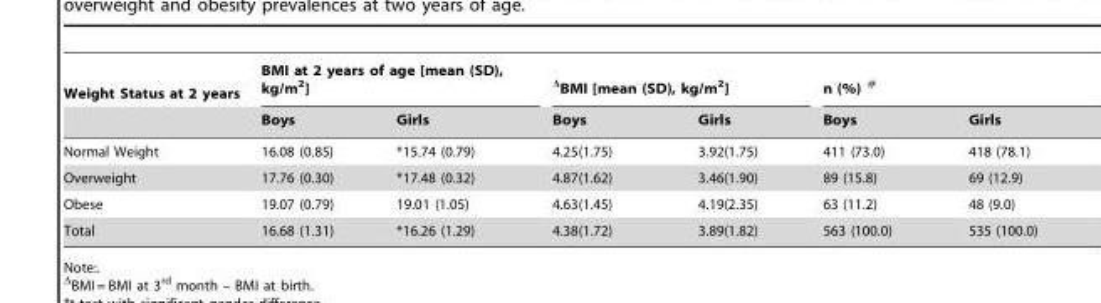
<table><thead><tr><td rowspan="2">Weight Status at 2 years</td><td colspan="2">BMI at 2 years of age [mean (SD), kg/m<sup>2</sup>]</td><td colspan="2">ΔBMI [mean (SD), kg/m<sup>2</sup>]</td><td colspan="2">n (%) #</td></tr><tr><td>Boys</td><td>Girls</td><td>Boys</td><td>Girls</td><td>Boys</td><td>Girls</td></tr></thead><tbody><tr><td>Normal Weight</td><td>16.08 (0.85)</td><td>*15.74 (0.79)</td><td>4.25(1.75)</td><td>3.92(1.75)</td><td>411 (73.0)</td><td>418 (78.1)</td></tr><tr><td>Overweight</td><td>17.76 (0.30)</td><td>*17.48 (0.32)</td><td>4.87(1.62)</td><td>3.46(1.90)</td><td>89 (15.8)</td><td>69 (12.9)</td></tr><tr><td>Obese</td><td>19.07 (0.79)</td><td>19.01 (1.05)</td><td>4.63(1.45)</td><td>4.19(2.35)</td><td>63 (11.2)</td><td>48 (9.0)</td></tr><tr><td>Total</td><td>16.68 (1.31)</td><td>*16.26 (1.29)</td><td>4.38(1.72)</td><td>3.89(1.82)</td><td>563 (100.0)</td><td>535 (100.0)</td></tr></tbody></table>